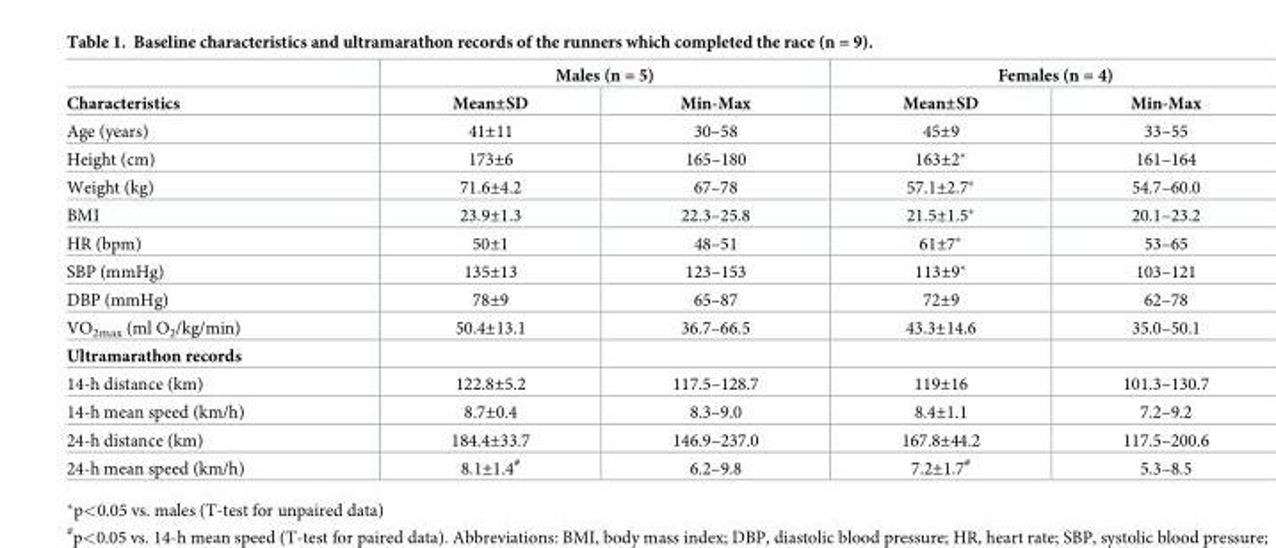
<table><thead><tr><td rowspan="2">Characteristics</td><td colspan="2">Males (n = 5)</td><td colspan="2">Females (n = 4)</td></tr><tr><td>Mean±SD</td><td>Min-Max</td><td>Mean±SD</td><td>Min-Max</td></tr></thead><tbody><tr><td>Age (years)</td><td>41±11</td><td>30–58</td><td>45±9</td><td>33–55</td></tr><tr><td>Height (cm)</td><td>173±6</td><td>165–180</td><td>163±2*</td><td>161–164</td></tr><tr><td>Weight (kg)</td><td>71.6±4.2</td><td>67–78</td><td>57.1±2.7*</td><td>54.7–60.0</td></tr><tr><td>BMI</td><td>23.9±1.3</td><td>22.3–25.8</td><td>21.5±1.5*</td><td>20.1–23.2</td></tr><tr><td>HR (bpm)</td><td>50±1</td><td>48–51</td><td>61±7*</td><td>53–65</td></tr><tr><td>SBP (mmHg)</td><td>135±13</td><td>123–153</td><td>113±9*</td><td>103–121</td></tr><tr><td>DBP (mmHg)</td><td>78±9</td><td>65–87</td><td>72±9</td><td>62–78</td></tr><tr><td>VO<sub>2max</sub> (ml O<sub>2</sub>/kg/min)</td><td>50.4±13.1</td><td>36.7–66.5</td><td>43.3±14.6</td><td>35.0–50.1</td></tr><tr><td colspan="5">Ultramarathon records</td></tr><tr><td>14-h distance (km)</td><td>122.8±5.2</td><td>117.5–128.7</td><td>119±16</td><td>101.3–130.7</td></tr><tr><td>14-h mean speed (km/h)</td><td>8.7±0.4</td><td>8.3–9.0</td><td>8.4±1.1</td><td>7.2–9.2</td></tr><tr><td>24-h distance (km)</td><td>184.4±33.7</td><td>146.9–237.0</td><td>167.8±44.2</td><td>117.5–200.6</td></tr><tr><td>24-h mean speed (km/h)</td><td>8.1±1.4<sup>#</sup></td><td>6.2–9.8</td><td>7.2±1.7<sup>#</sup></td><td>5.3–8.5</td></tr></tbody></table>